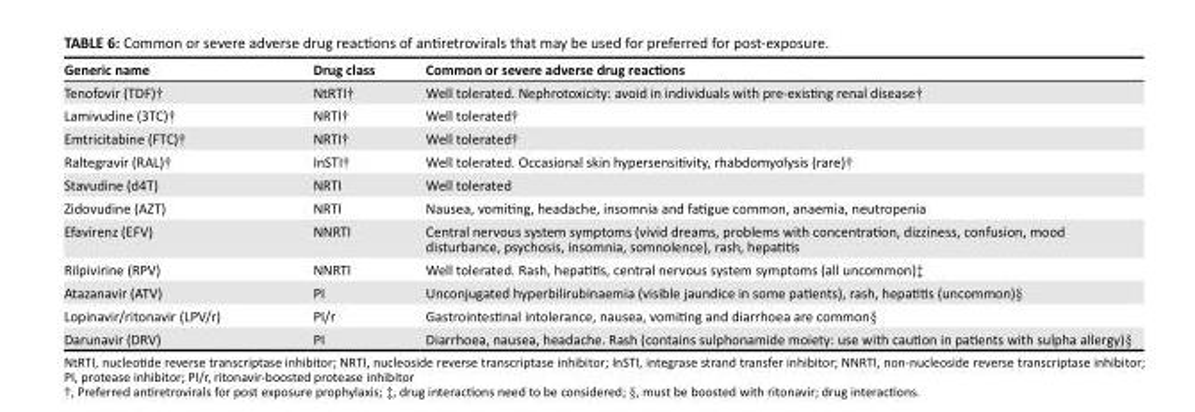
<table><thead><tr><td>Generic name</td><td>Drug class</td><td>Common or severe adverse drug reactions</td></tr></thead><tbody><tr><td>Tenofovir (TDF)†</td><td>NtRTI†</td><td>Well tolerated. Nephrotoxicity: avoid in individuals with pre-existing renal disease†</td></tr><tr><td>Lamivudine (3TC)†</td><td>NRTI†</td><td>Well tolerated†</td></tr><tr><td>Emtricitabine (FTC)†</td><td>NRTI†</td><td>Well tolerated†</td></tr><tr><td>Raltegravir (RAL)†</td><td>InSTI†</td><td>Well tolerated. Occasional skin hypersensitivity, rhabdomyolysis (rare)†</td></tr><tr><td>Stavudine (d4T)</td><td>NRTI</td><td>Well tolerated</td></tr><tr><td>Zidovudine (AZT)</td><td>NRTI</td><td>Nausea, vomiting, headache, insomnia and fatigue common, anaemia, neutropenia</td></tr><tr><td>Efavirenz (EFV)</td><td>NNRTI</td><td>Central nervous system symptoms (vivid dreams, problems with concentration, dizziness, confusion, mood disturbance, psychosis, insomnia, somnolence), rash, hepatitis</td></tr><tr><td>Rilpivirine (RPV)</td><td>NNRTI</td><td>Well tolerated. Rash, hepatitis, central nervous system symptoms (all uncommon)‡</td></tr><tr><td>Atazanavir (ATV)</td><td>PI</td><td>Unconjugated hyperbilirubinaemia (visible jaundice in some patients), rash, hepatitis (uncommon)§</td></tr><tr><td>Lopinavir/ritonavir (LPV/r)</td><td>PI/r</td><td>Gastrointestinal intolerance, nausea, vomiting and diarrhoea are common§</td></tr><tr><td>Darunavir (DRV)</td><td>PI</td><td>Diarrhoea, nausea, headache. Rash (contains sulphonamide moiety: use with caution in patients with sulpha allergy)§</td></tr></tbody></table>